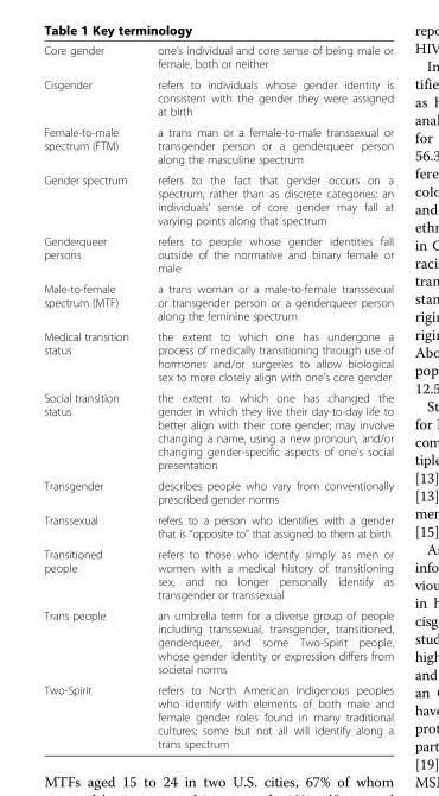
<table><tbody><tr><td>Core gender</td><td>one’s individual and core sense of being male or female, both or neither</td></tr><tr><td>Cisgender</td><td>refers to individuals whose gender identity is consistent with the gender they were assigned at birth</td></tr><tr><td>Female-to-male spectrum (FTM)</td><td>a trans man or a female-to-male transsexual or transgender person or a genderqueer person along the masculine spectrum</td></tr><tr><td>Gender spectrum</td><td>refers to the fact that gender occurs on a spectrum, rather than as discrete categories; an individuals’ sense of core gender may fall at varying points along that spectrum</td></tr><tr><td>Genderqueer persons</td><td>refers to people whose gender identities fall outside of the normative and binary female or male</td></tr><tr><td>Male-to-female spectrum (MTF)</td><td>a trans woman or a male-to-female transsexual or transgender person or a genderqueer person along the feminine spectrum</td></tr><tr><td>Medical transition status</td><td>the extent to which one has undergone a process of medically transitioning through use of hormones and/or surgeries to allow biological sex to more closely align with one’s core gender</td></tr><tr><td>Social transition status</td><td>the extent to which one has changed the gender in which they live their day-to-day life to better align with their core gender; may involve changing a name, using a new pronoun, and/or changing gender-specific aspects of one’s social presentation</td></tr><tr><td>Transgender</td><td>describes people who vary from conventionally prescribed gender norms</td></tr><tr><td>Transsexual</td><td>refers to a person who identifies with a gender that is “opposite to” that assigned to them at birth</td></tr><tr><td>Transitioned people</td><td>refers to those who identify simply as men or women with a medical history of transitioning sex, and no longer personally identify as transgender or transsexual</td></tr><tr><td>Trans people</td><td>an umbrella term for a diverse group of people including transsexual, transgender, transitioned, genderqueer, and some Two-Spirit people, whose gender identity or expression differs from societal norms</td></tr><tr><td>Two-Spirit</td><td>refers to North American Indigenous peoples who identify with elements of both male and female gender roles found in many traditional cultures; some but not all will identify along a trans spectrum</td></tr></tbody></table>